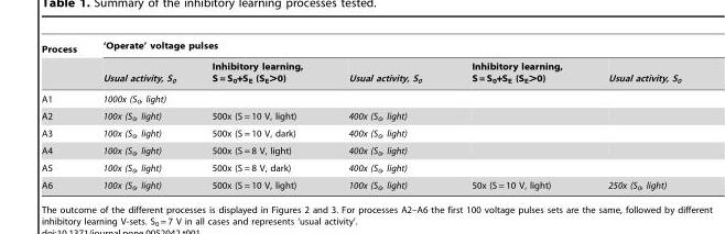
<table><thead><tr><td rowspan="2">Process</td><td colspan="5">‘Operate’ voltage pulses</td></tr><tr><td>Usual activity, S<sub>0</sub></td><td>Inhibitory learning, S = S<sub>0</sub>+S<sub>E</sub> (S<sub>E</sub>&gt;0)</td><td>Usual activity, S<sub>0</sub></td><td>Inhibitory learning, S = S<sub>0</sub>+S<sub>E</sub> (S<sub>E</sub>&gt;0)</td><td>Usual activity, S<sub>0</sub></td></tr></thead><tbody><tr><td>A1</td><td>1000x (S<sub>0</sub>, light)</td><td></td><td></td><td></td><td></td></tr><tr><td>A2</td><td>100x (S<sub>0</sub>, light)</td><td>500x (S = 10 V, light)</td><td>400x (S<sub>0</sub>, light)</td><td></td><td></td></tr><tr><td>A3</td><td>100x (S<sub>0</sub>, light)</td><td>500x (S = 10 V, dark)</td><td>400x (S<sub>0</sub>, light)</td><td></td><td></td></tr><tr><td>A4</td><td>100x (S<sub>0</sub>, light)</td><td>500x (S = 8 V, light)</td><td>400x (S<sub>0</sub>, light)</td><td></td><td></td></tr><tr><td>A5</td><td>100x (S<sub>0</sub>, light)</td><td>500x (S = 8 V, dark)</td><td>400x (S<sub>0</sub>, light)</td><td></td><td></td></tr><tr><td>A6</td><td>100x (S<sub>0</sub>, light)</td><td>500x (S = 10 V, light)</td><td>100x (S<sub>0</sub>, light)</td><td>50x (S = 10 V, light)</td><td>250x (S<sub>0</sub>, light)</td></tr></tbody></table>